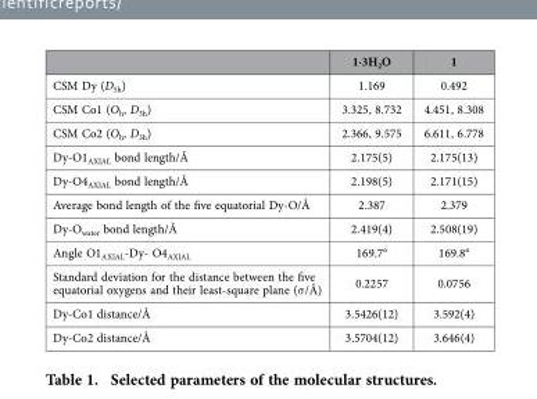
<table><thead><tr><td></td><td>1·3H<sub>2</sub>O</td><td>1</td></tr></thead><tbody><tr><td>CSM Dy (D<sub>5h</sub>)</td><td>1.169</td><td>0.492</td></tr><tr><td>CSM Co1 (O<sub>h</sub>, D<sub>3h</sub>)</td><td>3.325, 8.732</td><td>4.451, 8.308</td></tr><tr><td>CSM Co2 (O<sub>h</sub>, D<sub>3h</sub>)</td><td>2.366, 9.575</td><td>6.611, 6.778</td></tr><tr><td>Dy-O1<sub>AXIAL</sub> bond length/Å</td><td>2.175(5)</td><td>2.175(13)</td></tr><tr><td>Dy-O4<sub>AXIAL</sub> bond length/Å</td><td>2.198(5)</td><td>2.171(15)</td></tr><tr><td>Average bond length of the five equatorial Dy-O/Å</td><td>2.387</td><td>2.379</td></tr><tr><td>Dy-O<sub>water</sub> bond length/Å</td><td>2.419(4)</td><td>2.508(19)</td></tr><tr><td>Angle O1<sub>AXIAL</sub>-Dy- O4<sub>AXIAL</sub></td><td>169.7°</td><td>169.8°</td></tr><tr><td>Standard deviation for the distance between the five equatorial oxygens and their least-square plane (σ /Å)</td><td>0.2257</td><td>0.0756</td></tr><tr><td>Dy-Co1 distance/Å</td><td>3.5426(12)</td><td>3.592(4)</td></tr><tr><td>Dy-Co2 distance/Å</td><td>3.5704(12)</td><td>3.646(4)</td></tr></tbody></table>